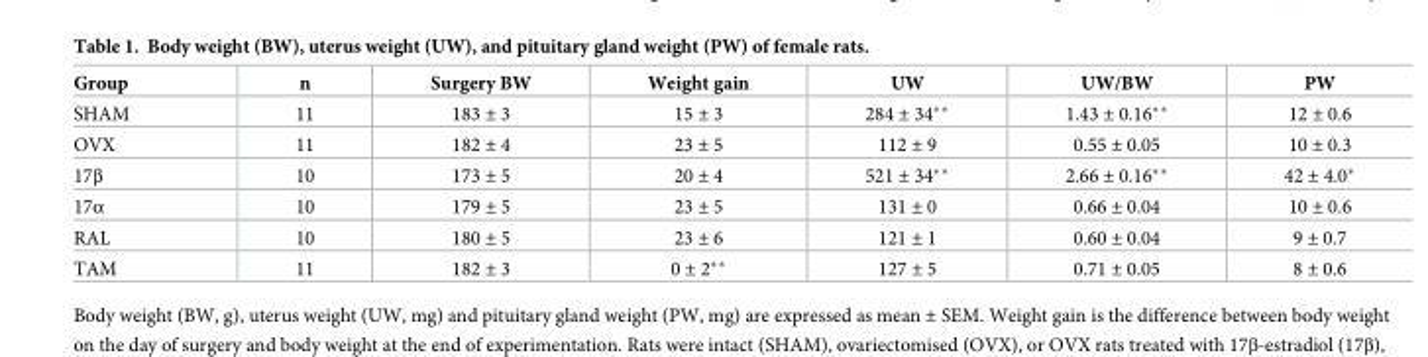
<table><thead><tr><td>Group</td><td>n</td><td>Surgery BW</td><td>Weight gain</td><td>UW</td><td>UW/BW</td><td>PW</td></tr></thead><tbody><tr><td>SHAM</td><td>11</td><td>183 ± 3</td><td>15 ± 3</td><td>284 ± 34**</td><td>1.43 ± 0.16**</td><td>12 ± 0.6</td></tr><tr><td>OVX</td><td>11</td><td>182 ± 4</td><td>23 ± 5</td><td>112 ± 9</td><td>0.55 ± 0.05</td><td>10 ± 0.3</td></tr><tr><td>17β</td><td>10</td><td>173 ± 5</td><td>20 ± 4</td><td>521 ± 34**</td><td>2.66 ± 0.16**</td><td>42 ± 4.0*</td></tr><tr><td>17α</td><td>10</td><td>179 ± 5</td><td>23 ± 5</td><td>131 ± 0</td><td>0.66 ± 0.04</td><td>10 ± 0.6</td></tr><tr><td>RAL</td><td>10</td><td>180 ± 5</td><td>23 ± 6</td><td>121 ± 1</td><td>0.60 ± 0.04</td><td>9 ± 0.7</td></tr><tr><td>TAM</td><td>11</td><td>182 ± 3</td><td>0 ± 2**</td><td>127 ± 5</td><td>0.71 ± 0.05</td><td>8 ± 0.6</td></tr></tbody></table>